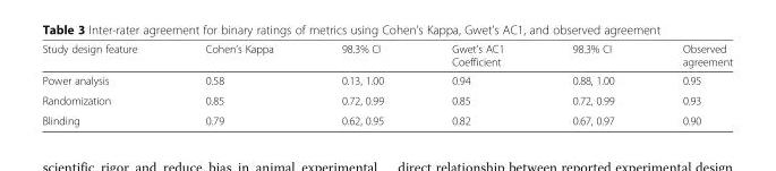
<table><thead><tr><td>Study design feature</td><td>Cohen’s Kappa</td><td>98.3% CI</td><td>Gwet’s AC1 Coefficient</td><td>98.3% CI</td><td>Observed agreement</td></tr></thead><tbody><tr><td>Power analysis</td><td>0.58</td><td>0.13, 1.00</td><td>0.94</td><td>0.88, 1.00</td><td>0.95</td></tr><tr><td>Randomization</td><td>0.85</td><td>0.72, 0.99</td><td>0.85</td><td>0.72, 0.99</td><td>0.93</td></tr><tr><td>Blinding</td><td>0.79</td><td>0.62, 0.95</td><td>0.82</td><td>0.67, 0.97</td><td>0.90</td></tr></tbody></table>